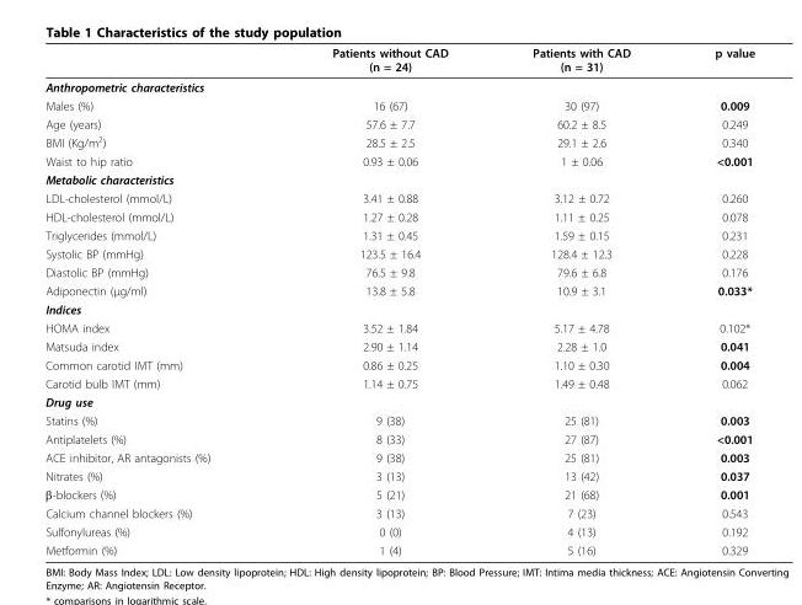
<table><thead><tr><td></td><td>Patients without CAD (n = 24)</td><td>Patients with CAD (n = 31)</td><td>p value</td></tr></thead><tbody><tr><td colspan="4">Anthropometric characteristics</td></tr><tr><td>Males (%)</td><td>16 (67)</td><td>30 (97)</td><td>0.009</td></tr><tr><td>Age (years)</td><td>57.6 ± 7.7</td><td>60.2 ± 8.5</td><td>0.249</td></tr><tr><td>BMI (Kg/m<sup>2</sup>)</td><td>28.5 ± 2.5</td><td>29.1 ± 2.6</td><td>0.340</td></tr><tr><td>Waist to hip ratio</td><td>0.93 ± 0.06</td><td>1 ± 0.06</td><td>&lt;0.001</td></tr><tr><td colspan="4">Metabolic characteristics</td></tr><tr><td>LDL-cholesterol (mmol/L)</td><td>3.41 ± 0.88</td><td>3.12 ± 0.72</td><td>0.260</td></tr><tr><td>HDL-cholesterol (mmol/L)</td><td>1.27 ± 0.28</td><td>1.11 ± 0.25</td><td>0.078</td></tr><tr><td>Triglycerides (mmol/L)</td><td>1.31 ± 0.45</td><td>1.59 ± 0.15</td><td>0.231</td></tr><tr><td>Systolic BP (mmHg)</td><td>123.5 ± 16.4</td><td>128.4 ± 12.3</td><td>0.228</td></tr><tr><td>Diastolic BP (mmHg)</td><td>76.5 ± 9.8</td><td>79.6 ± 6.8</td><td>0.176</td></tr><tr><td>Adiponectin (μg/ml)</td><td>13.8 ± 5.8</td><td>10.9 ± 3.1</td><td>0.033*</td></tr><tr><td colspan="4">Indices</td></tr><tr><td>HOMA index</td><td>3.52 ± 1.84</td><td>5.17 ± 4.78</td><td>0.102*</td></tr><tr><td>Matsuda index</td><td>2.90 ± 1.14</td><td>2.28 ± 1.0</td><td>0.041</td></tr><tr><td>Common carotid IMT (mm)</td><td>0.86 ± 0.25</td><td>1.10 ± 0.30</td><td>0.004</td></tr><tr><td>Carotid bulb IMT (mm)</td><td>1.14 ± 0.75</td><td>1.49 ± 0.48</td><td>0.062</td></tr><tr><td colspan="4">Drug use</td></tr><tr><td>Statins (%)</td><td>9 (38)</td><td>25 (81)</td><td>0.003</td></tr><tr><td>Antiplatelets (%)</td><td>8 (33)</td><td>27 (87)</td><td>&lt;0.001</td></tr><tr><td>ACE inhibitor, AR antagonists (%)</td><td>9 (38)</td><td>25 (81)</td><td>0.003</td></tr><tr><td>Nitrates (%)</td><td>3 (13)</td><td>13 (42)</td><td>0.037</td></tr><tr><td>β-blockers (%)</td><td>5 (21)</td><td>21 (68)</td><td>0.001</td></tr><tr><td>Calcium channel blockers (%)</td><td>3 (13)</td><td>7 (23)</td><td>0.543</td></tr><tr><td>Sulfonylureas (%)</td><td>0 (0)</td><td>4 (13)</td><td>0.192</td></tr><tr><td>Metformin (%)</td><td>1 (4)</td><td>5 (16)</td><td>0.329</td></tr></tbody></table>